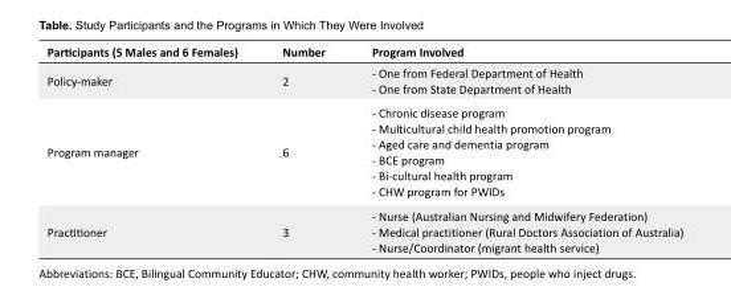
<table><tbody><tr><td>Participants (5 Males and 6 Females)</td><td>Number</td><td>Program Involved</td></tr><tr><td>Policy-maker</td><td>2</td><td>- One from Federal Department of Health - One from State Department of Health</td></tr><tr><td>Program manager</td><td>6</td><td>- Chronic disease program - Multicultural child health promotion program - Aged care and dementia program - BCE program - Bi-cultural health program - CHW program for PWIDs</td></tr><tr><td>Practitioner</td><td>3</td><td>- Nurse (Australian Nursing and Midwifery Federation) - Medical practitioner (Rural Doctors Association of Australia) - Nurse/Coordinator (migrant health service)</td></tr></tbody></table>